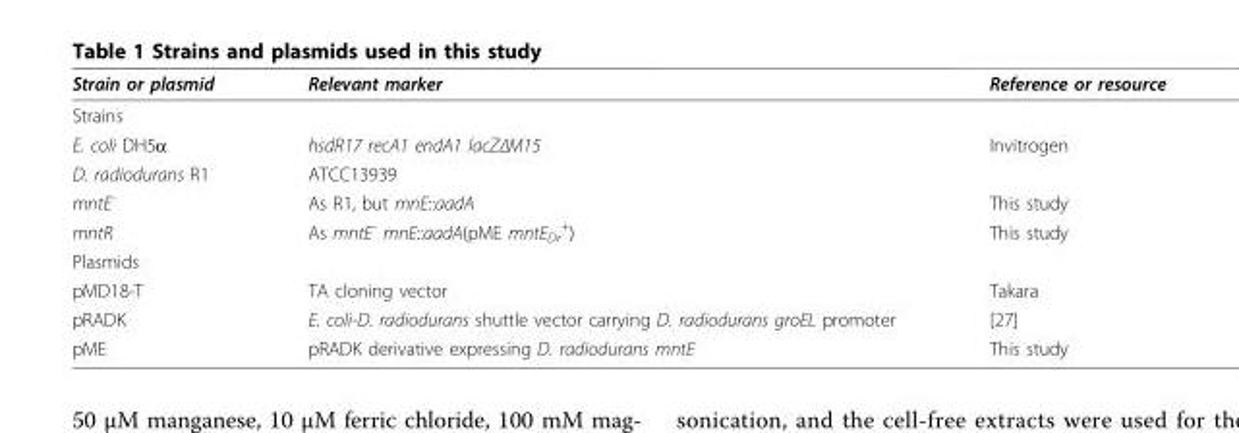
<table><thead><tr><td>Strain or plasmid</td><td>Relevant marker</td><td>Reference or resource</td></tr></thead><tbody><tr><td colspan="3">Strains</td></tr><tr><td>E. coli DH5α</td><td>hsdR17 recA1 endA1 lacZΔM15</td><td>Invitrogen</td></tr><tr><td>D. radiodurans R1</td><td>ATCC13939</td><td></td></tr><tr><td>mntE<sup>-</sup></td><td>As R1, but mnE::aadA</td><td>This study</td></tr><tr><td>mntR</td><td>As mntE<sup>-</sup> mnE::aadA(pME mntE<sub>Dr</sub> <sup>+</sup>)</td><td>This study</td></tr><tr><td colspan="3">Plasmids</td></tr><tr><td>pMD18-T</td><td>TA cloning vector</td><td>Takara</td></tr><tr><td>pRADK</td><td>E. coli-D. radiodurans shuttle vector carrying D. radiodurans groEL promoter</td><td>[27]</td></tr><tr><td>pME</td><td>pRADK derivative expressing D. radiodurans mntE</td><td>This study</td></tr></tbody></table>